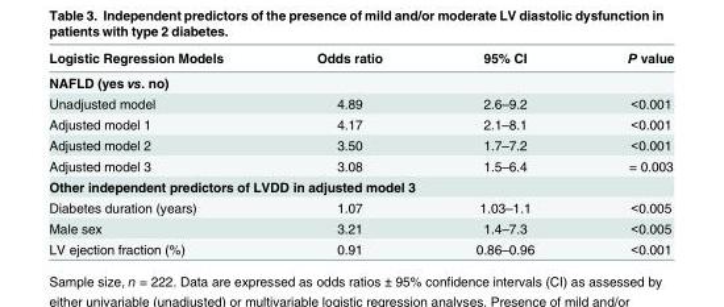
<table><thead><tr><td>Logistic Regression Models</td><td>Odds ratio</td><td>95% CI</td><td>P value</td></tr></thead><tbody><tr><td colspan="4">NAFLD (yes vs. no)</td></tr><tr><td>Unadjusted model</td><td>4.89</td><td>2.6–9.2</td><td>&lt;0.001</td></tr><tr><td>Adjusted model 1</td><td>4.17</td><td>2.1–8.1</td><td>&lt;0.001</td></tr><tr><td>Adjusted model 2</td><td>3.50</td><td>1.7–7.2</td><td>&lt;0.001</td></tr><tr><td>Adjusted model 3</td><td>3.08</td><td>1.5–6.4</td><td>= 0.003</td></tr><tr><td colspan="4">Other independent predictors of LVDD in adjusted model 3</td></tr><tr><td>Diabetes duration (years)</td><td>1.07</td><td>1.03–1.1</td><td>&lt;0.005</td></tr><tr><td>Male sex</td><td>3.21</td><td>1.4–7.3</td><td>&lt;0.005</td></tr><tr><td>LV ejection fraction (%)</td><td>0.91</td><td>0.86–0.96</td><td>&lt;0.001</td></tr></tbody></table>